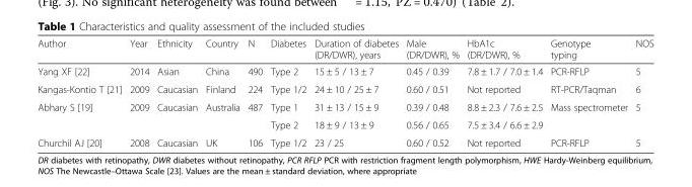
<table><thead><tr><td>Author</td><td>Year</td><td>Ethnicity</td><td>Country</td><td>N</td><td>Diabetes</td><td>Duration of diabetes (DR/DWR), years</td><td>Male (DR/DWR), %</td><td>HbA1c (DR/DWR), %</td><td>Genotype typing</td><td>NOS</td></tr></thead><tbody><tr><td>Yang XF [22]</td><td>2014</td><td>Asian</td><td>China</td><td>490</td><td>Type 2</td><td>15 ± 5 / 13 ± 7</td><td>0.45 / 0.39</td><td>7.8 ± 1.7 / 7.0 ± 1.4</td><td>PCR-RFLP</td><td>5</td></tr><tr><td>Kangas-Kontio T [21]</td><td>2009</td><td>Caucasian</td><td>Finland</td><td>224</td><td>Type 1/2</td><td>24 ± 10 / 25 ± 7</td><td>0.60 / 0.51</td><td>Not reported</td><td>RT-PCR/Taqman</td><td>6</td></tr><tr><td rowspan="2">Abhary S [19]</td><td>2009</td><td>Caucasian</td><td>Australia</td><td>487</td><td>Type 1</td><td>31 ± 13 / 15 ± 9</td><td>0.39 / 0.48</td><td>8.8 ± 2.3 / 7.6 ± 2.5</td><td>Mass spectrometer</td><td>5</td></tr><tr><td></td><td></td><td></td><td></td><td>Type 2</td><td>18 ± 9 / 13 ± 9</td><td>0.56 / 0.65</td><td>7.5 ± 3.4 / 6.6 ± 2.9</td><td></td><td></td></tr><tr><td>Churchil AJ [20]</td><td>2008</td><td>Caucasian</td><td>UK</td><td>106</td><td>Type 1/2</td><td>23 / 25</td><td>0.60 / 0.52</td><td>Not reported</td><td>PCR-RFLP</td><td>5</td></tr></tbody></table>